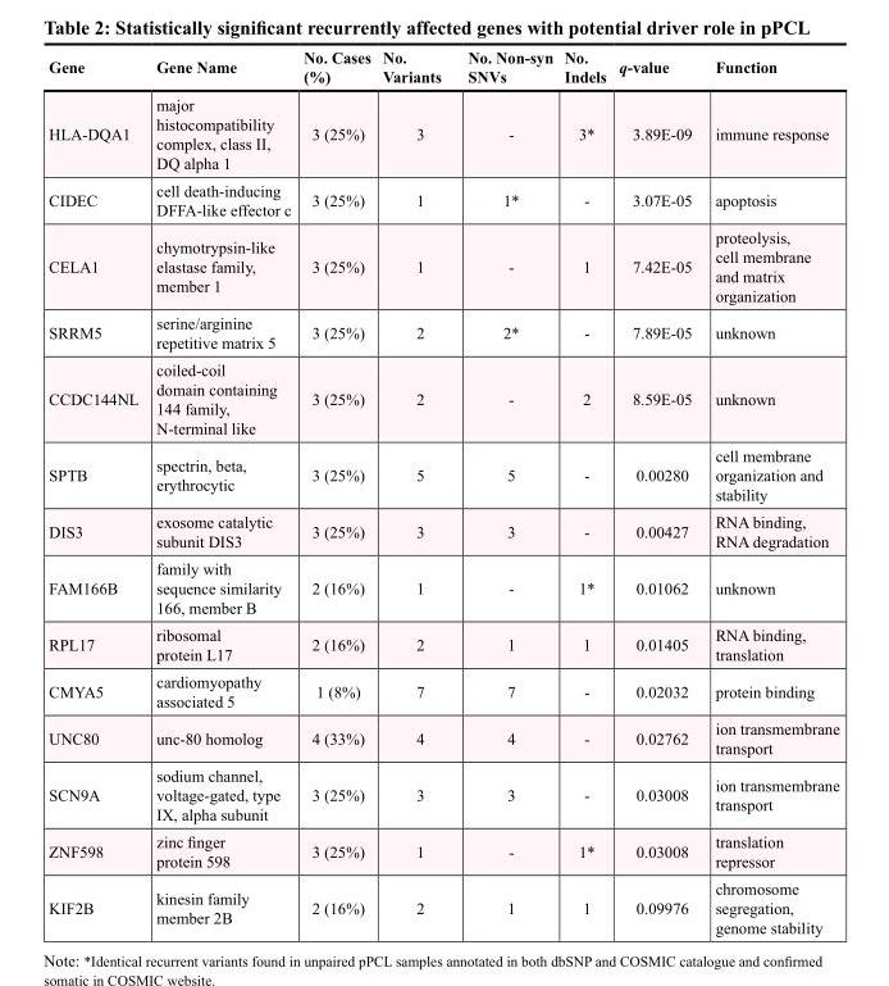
<table><thead><tr><td>Gene</td><td>Gene Name</td><td>No. Cases (%)</td><td>No. Variants</td><td>No. Non-syn SNVs</td><td>No. Indels</td><td>q-value</td><td>Function</td></tr></thead><tbody><tr><td>HLA-DQA1</td><td>major histocompatibility complex, class II, DQ alpha 1</td><td>3 (25%)</td><td>3</td><td>-</td><td>3*</td><td>3.89E-09</td><td>immune response</td></tr><tr><td>CIDEC</td><td>cell death-inducing DFFA-like effector c</td><td>3 (25%)</td><td>1</td><td>1*</td><td>-</td><td>3.07E-05</td><td>apoptosis</td></tr><tr><td>CELA1</td><td>chymotrypsin-like elastase family, member 1</td><td>3 (25%)</td><td>1</td><td>-</td><td>1</td><td>7.42E-05</td><td>proteolysis, cell membrane and matrix organization</td></tr><tr><td>SRRM5</td><td>serine/arginine repetitive matrix 5</td><td>3 (25%)</td><td>2</td><td>2*</td><td>-</td><td>7.89E-05</td><td>unknown</td></tr><tr><td>CCDC144NL</td><td>coiled-coil domain containing 144 family, N-terminal like</td><td>3 (25%)</td><td>2</td><td>-</td><td>2</td><td>8.59E-05</td><td>unknown</td></tr><tr><td>SPTB</td><td>spectrin, beta, erythrocytic</td><td>3 (25%)</td><td>5</td><td>5</td><td>-</td><td>0.00280</td><td>cell membrane organization and stability</td></tr><tr><td>DIS3</td><td>exosome catalytic subunit DIS3</td><td>3 (25%)</td><td>3</td><td>3</td><td>-</td><td>0.00427</td><td>RNA binding, RNA degradation</td></tr><tr><td>FAM166B</td><td>family with sequence similarity 166, member B</td><td>2 (16%)</td><td>1</td><td>-</td><td>1*</td><td>0.01062</td><td>unknown</td></tr><tr><td>RPL17</td><td>ribosomal protein L17</td><td>2 (16%)</td><td>2</td><td>1</td><td>1</td><td>0.01405</td><td>RNA binding, translation</td></tr><tr><td>CMYA5</td><td>cardiomyopathy associated 5</td><td>1 (8%)</td><td>7</td><td>7</td><td>-</td><td>0.02032</td><td>protein binding</td></tr><tr><td>UNC80</td><td>unc-80 homolog</td><td>4 (33%)</td><td>4</td><td>4</td><td>-</td><td>0.02762</td><td>ion transmembrane transport</td></tr><tr><td>SCN9A</td><td>sodium channel, voltage-gated, type IX, alpha subunit</td><td>3 (25%)</td><td>3</td><td>3</td><td>-</td><td>0.03008</td><td>ion transmembrane transport</td></tr><tr><td>ZNF598</td><td>zinc finger protein 598</td><td>3 (25%)</td><td>1</td><td>-</td><td>1*</td><td>0.03008</td><td>translation repressor</td></tr><tr><td>KIF2B</td><td>kinesin family member 2B</td><td>2 (16%)</td><td>2</td><td>1</td><td>1</td><td>0.09976</td><td>chromosome segregation, genome stability</td></tr></tbody></table>